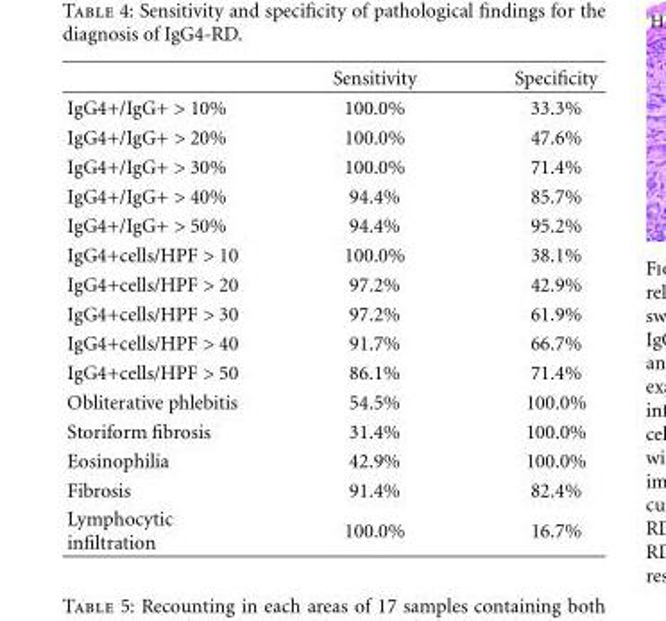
<table><thead><tr><td></td><td>Sensitivity</td><td>Specificity</td></tr></thead><tbody><tr><td>IgG4+/IgG+ &gt; 10%</td><td>100.0%</td><td>33.3%</td></tr><tr><td>IgG4+/IgG+ &gt; 20%</td><td>100.0%</td><td>47.6%</td></tr><tr><td>IgG4+/IgG+ &gt; 30%</td><td>100.0%</td><td>71.4%</td></tr><tr><td>IgG4+/IgG+ &gt; 40%</td><td>94.4%</td><td>85.7%</td></tr><tr><td>IgG4+/IgG+ &gt; 50%</td><td>94.4%</td><td>95.2%</td></tr><tr><td>IgG4+cells/HPF &gt; 10</td><td>100.0%</td><td>38.1%</td></tr><tr><td>IgG4+cells/HPF &gt; 20</td><td>97.2%</td><td>42.9%</td></tr><tr><td>IgG4+cells/HPF &gt; 30</td><td>97.2%</td><td>61.9%</td></tr><tr><td>IgG4+cells/HPF &gt; 40</td><td>91.7%</td><td>66.7%</td></tr><tr><td>IgG4+cells/HPF &gt; 50</td><td>86.1%</td><td>71.4%</td></tr><tr><td>Obliterative phlebitis</td><td>54.5%</td><td>100.0%</td></tr><tr><td>Storiform fibrosis</td><td>31.4%</td><td>100.0%</td></tr><tr><td>Eosinophilia</td><td>42.9%</td><td>100.0%</td></tr><tr><td>Fibrosis</td><td>91.4%</td><td>82.4%</td></tr><tr><td>Lymphocytic infiltration</td><td>100.0%</td><td>16.7%</td></tr></tbody></table>